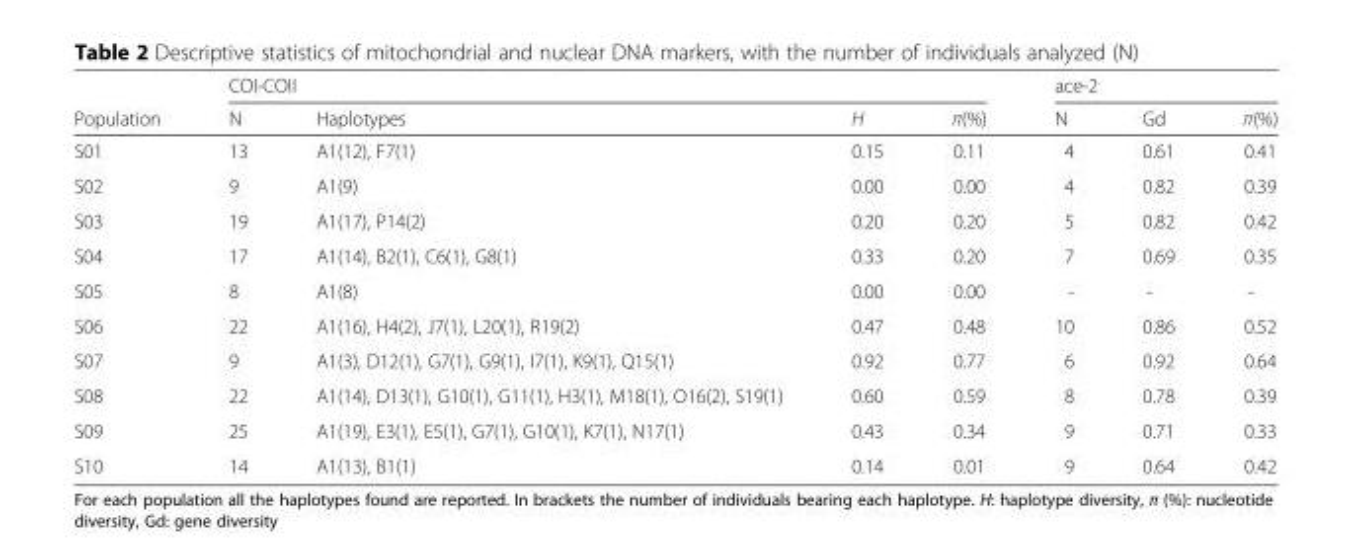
<table><thead><tr><td rowspan="2">Population</td><td colspan="4">COI-COII</td><td colspan="3">ace-2</td></tr><tr><td>N</td><td>Haplotypes</td><td>H</td><td>π(%)</td><td>N</td><td>Gd</td><td>π(%)</td></tr></thead><tbody><tr><td>S01</td><td>13</td><td>A1(12), F7(1)</td><td>0.15</td><td>0.11</td><td>4</td><td>0.61</td><td>0.41</td></tr><tr><td>S02</td><td>9</td><td>A1(9)</td><td>0.00</td><td>0.00</td><td>4</td><td>0.82</td><td>0.39</td></tr><tr><td>S03</td><td>19</td><td>A1(17), P14(2)</td><td>0.20</td><td>0.20</td><td>5</td><td>0.82</td><td>0.42</td></tr><tr><td>S04</td><td>17</td><td>A1(14), B2(1), C6(1), G8(1)</td><td>0.33</td><td>0.20</td><td>7</td><td>0.69</td><td>0.35</td></tr><tr><td>S05</td><td>8</td><td>A1(8)</td><td>0.00</td><td>0.00</td><td>-</td><td>-</td><td>-</td></tr><tr><td>S06</td><td>22</td><td>A1(16), H4(2), J7(1), L20(1), R19(2)</td><td>0.47</td><td>0.48</td><td>10</td><td>0.86</td><td>0.52</td></tr><tr><td>S07</td><td>9</td><td>A1(3), D12(1), G7(1), G9(1), I7(1), K9(1), Q15(1)</td><td>0.92</td><td>0.77</td><td>6</td><td>0.92</td><td>0.64</td></tr><tr><td>S08</td><td>22</td><td>A1(14), D13(1), G10(1), G11(1), H3(1), M18(1), O16(2), S19(1)</td><td>0.60</td><td>0.59</td><td>8</td><td>0.78</td><td>0.39</td></tr><tr><td>S09</td><td>25</td><td>A1(19), E3(1), E5(1), G7(1), G10(1), K7(1), N17(1)</td><td>0.43</td><td>0.34</td><td>9</td><td>0.71</td><td>0.33</td></tr><tr><td>S10</td><td>14</td><td>A1(13), B1(1)</td><td>0.14</td><td>0.01</td><td>9</td><td>0.64</td><td>0.42</td></tr></tbody></table>